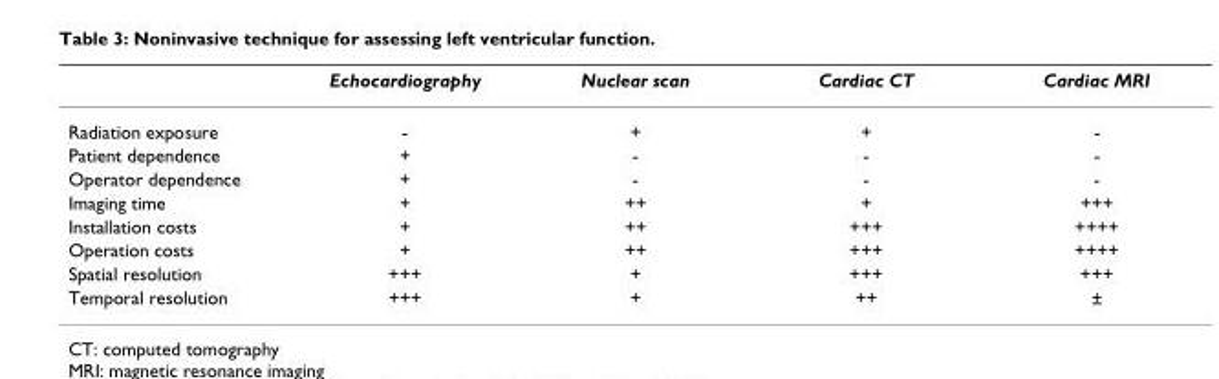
<table><thead><tr><td></td><td>Echocardiography</td><td>Nuclear scan</td><td>Cardiac CT</td><td>Cardiac MRI</td></tr></thead><tbody><tr><td>Radiation exposure</td><td>-</td><td>+</td><td>+</td><td>-</td></tr><tr><td>Patient dependence</td><td>+</td><td>-</td><td>-</td><td>-</td></tr><tr><td>Operator dependence</td><td>+</td><td>-</td><td>-</td><td>-</td></tr><tr><td>Imaging time</td><td>+</td><td>++</td><td>+</td><td>+++</td></tr><tr><td>Installation costs</td><td>+</td><td>++</td><td>+++</td><td>++++</td></tr><tr><td>Operation costs</td><td>+</td><td>++</td><td>+++</td><td>++++</td></tr><tr><td>Spatial resolution</td><td>+++</td><td>+</td><td>+++</td><td>+++</td></tr><tr><td>Temporal resolution</td><td>+++</td><td>+</td><td>++</td><td>±</td></tr></tbody></table>